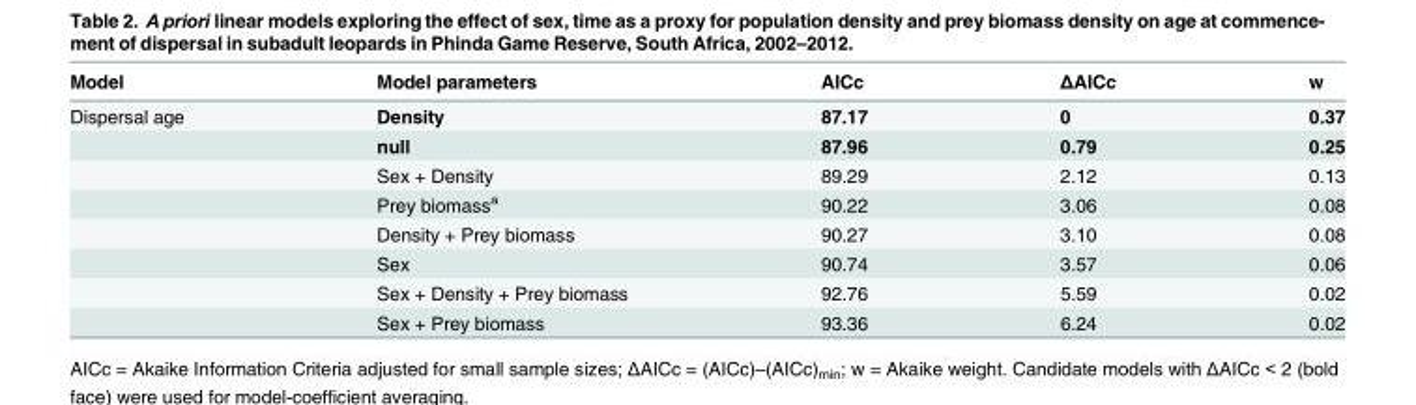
<table><thead><tr><td>Model</td><td>Model parameters</td><td>AICc</td><td>ΔAICc</td><td>w</td></tr></thead><tbody><tr><td rowspan="8">Dispersal age</td><td>Density</td><td>87.17</td><td>0</td><td>0.37</td></tr><tr><td>null</td><td>87.96</td><td>0.79</td><td>0.25</td></tr><tr><td>Sex + Density</td><td>89.29</td><td>2.12</td><td>0.13</td></tr><tr><td>Prey biomass<sup>a</sup></td><td>90.22</td><td>3.06</td><td>0.08</td></tr><tr><td>Density + Prey biomass</td><td>90.27</td><td>3.10</td><td>0.08</td></tr><tr><td>Sex</td><td>90.74</td><td>3.57</td><td>0.06</td></tr><tr><td>Sex + Density + Prey biomass</td><td>92.76</td><td>5.59</td><td>0.02</td></tr><tr><td>Sex + Prey biomass</td><td>93.36</td><td>6.24</td><td>0.02</td></tr></tbody></table>